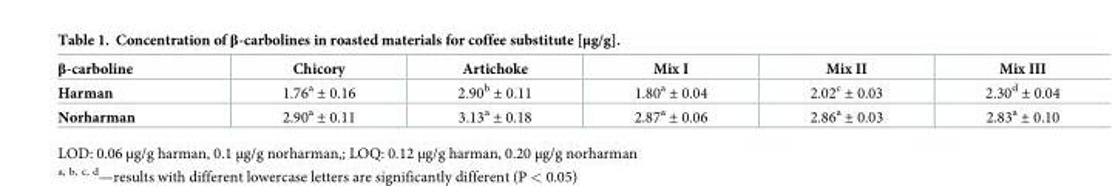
<table><thead><tr><td>β-carboline</td><td>Chicory</td><td>Artichoke</td><td>Mix I</td><td>Mix II</td><td>Mix III</td></tr></thead><tbody><tr><td>Harman</td><td>1.76<sup>a</sup> ± 0.16</td><td>2.90<sup>b</sup> ± 0.11</td><td>1.80<sup>a</sup> ± 0.04</td><td>2.02<sup>c</sup> ± 0.03</td><td>2.30<sup>d</sup> ± 0.04</td></tr><tr><td>Norharman</td><td>2.90<sup>a</sup> ± 0.11</td><td>3.13<sup>a</sup> ± 0.18</td><td>2.87<sup>a</sup> ± 0.06</td><td>2.86<sup>a</sup> ± 0.03</td><td>2.83<sup>a</sup> ± 0.10</td></tr></tbody></table>